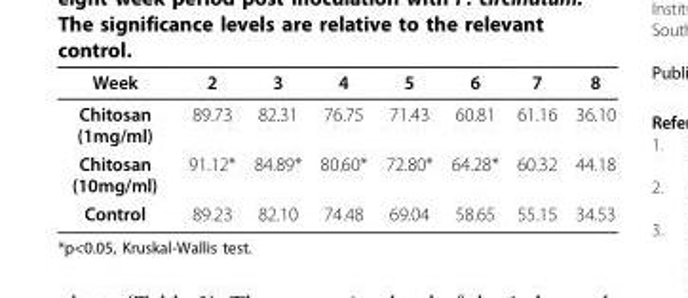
<table><thead><tr><td>Week</td><td>2</td><td>3</td><td>4</td><td>5</td><td>6</td><td>7</td><td>8</td></tr></thead><tbody><tr><td>Chitosan (1mg/ml)</td><td>89.73</td><td>82.31</td><td>76.75</td><td>71.43</td><td>60.81</td><td>61.16</td><td>36.10</td></tr><tr><td>Chitosan (10mg/ml)</td><td>91.12*</td><td>84.89*</td><td>80.60*</td><td>72.80*</td><td>64.28*</td><td>60.32</td><td>44.18</td></tr><tr><td>Control</td><td>89.23</td><td>82.10</td><td>74.48</td><td>69.04</td><td>58.65</td><td>55.15</td><td>34.53</td></tr></tbody></table>